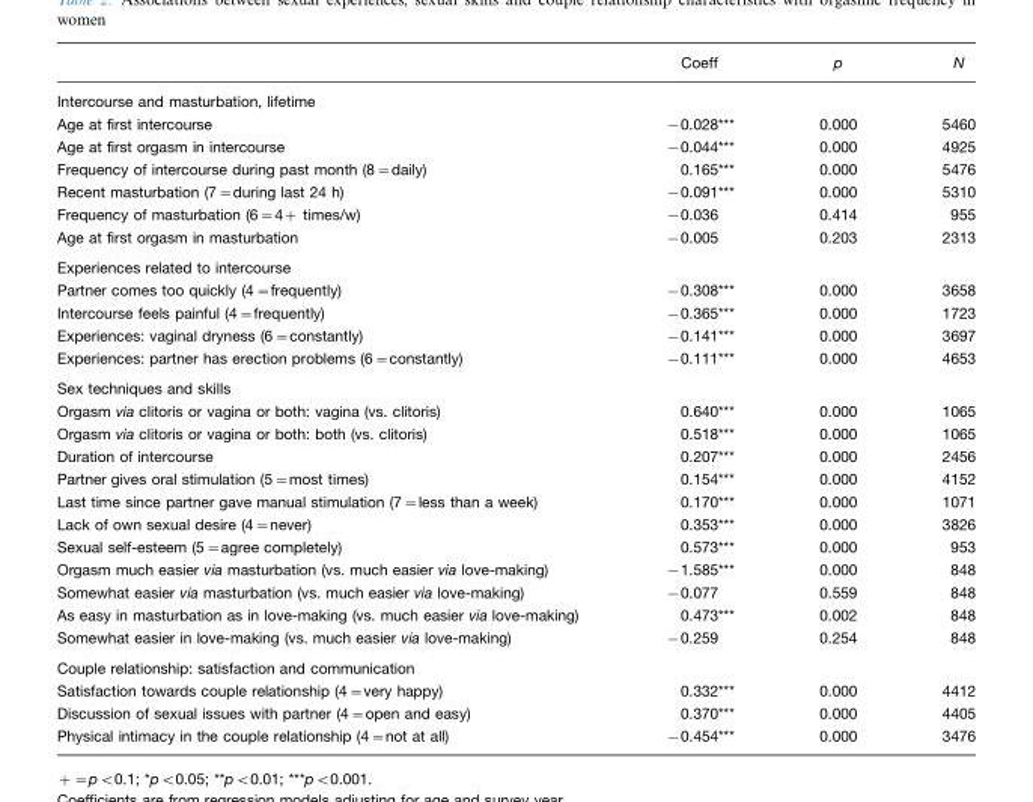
<table><thead><tr><td></td><td>Coeff</td><td>p</td><td>N</td></tr></thead><tbody><tr><td colspan="4">Intercourse and masturbation, lifetime</td></tr><tr><td>Age at first intercourse</td><td>−0.028***</td><td>0.000</td><td>5460</td></tr><tr><td>Age at first orgasm in intercourse</td><td>−0.044***</td><td>0.000</td><td>4925</td></tr><tr><td>Frequency of intercourse during past month (8=daily)</td><td>0.165***</td><td>0.000</td><td>5476</td></tr><tr><td>Recent masturbation (7=during last 24 h)</td><td>−0.091***</td><td>0.000</td><td>5310</td></tr><tr><td>Frequency of masturbation (6=4+ times/w)</td><td>−0.036</td><td>0.414</td><td>955</td></tr><tr><td>Age at first orgasm in masturbation</td><td>−0.005</td><td>0.203</td><td>2313</td></tr><tr><td colspan="4">Experiences related to intercourse</td></tr><tr><td>Partner comes too quickly (4=frequently)</td><td>−0.308***</td><td>0.000</td><td>3658</td></tr><tr><td>Intercourse feels painful (4=frequently)</td><td>−0.365***</td><td>0.000</td><td>1723</td></tr><tr><td>Experiences: vaginal dryness (6=constantly)</td><td>−0.141***</td><td>0.000</td><td>3697</td></tr><tr><td>Experiences: partner has erection problems (6=constantly)</td><td>−0.111***</td><td>0.000</td><td>4653</td></tr><tr><td colspan="4">Sex techniques and skills</td></tr><tr><td>Orgasm via clitoris or vagina or both: vagina (vs. clitoris)</td><td>0.640***</td><td>0.000</td><td>1065</td></tr><tr><td>Orgasm via clitoris or vagina or both: both (vs. clitoris)</td><td>0.518***</td><td>0.000</td><td>1065</td></tr><tr><td>Duration of intercourse</td><td>0.207***</td><td>0.000</td><td>2456</td></tr><tr><td>Partner gives oral stimulation (5=most times)</td><td>0.154***</td><td>0.000</td><td>4152</td></tr><tr><td>Last time since partner gave manual stimulation (7=less than a week)</td><td>0.170***</td><td>0.000</td><td>1071</td></tr><tr><td>Lack of own sexual desire (4=never)</td><td>0.353***</td><td>0.000</td><td>3826</td></tr><tr><td>Sexual self-esteem (5=agree completely)</td><td>0.573***</td><td>0.000</td><td>953</td></tr><tr><td>Orgasm much easier via masturbation (vs. much easier via love-making)</td><td>−1.585***</td><td>0.000</td><td>848</td></tr><tr><td>Somewhat easier via masturbation (vs. much easier via love-making)</td><td>−0.077</td><td>0.559</td><td>848</td></tr><tr><td>As easy in masturbation as in love-making (vs. much easier via love-making)</td><td>0.473***</td><td>0.002</td><td>848</td></tr><tr><td>Somewhat easier in love-making (vs. much easier via love-making)</td><td>−0.259</td><td>0.254</td><td>848</td></tr><tr><td colspan="4">Couple relationship: satisfaction and communication</td></tr><tr><td>Satisfaction towards couple relationship (4=very happy)</td><td>0.332***</td><td>0.000</td><td>4412</td></tr><tr><td>Discussion of sexual issues with partner (4=open and easy)</td><td>0.370***</td><td>0.000</td><td>4405</td></tr><tr><td>Physical intimacy in the couple relationship (4=not at all)</td><td>−0.454***</td><td>0.000</td><td>3476</td></tr></tbody></table>